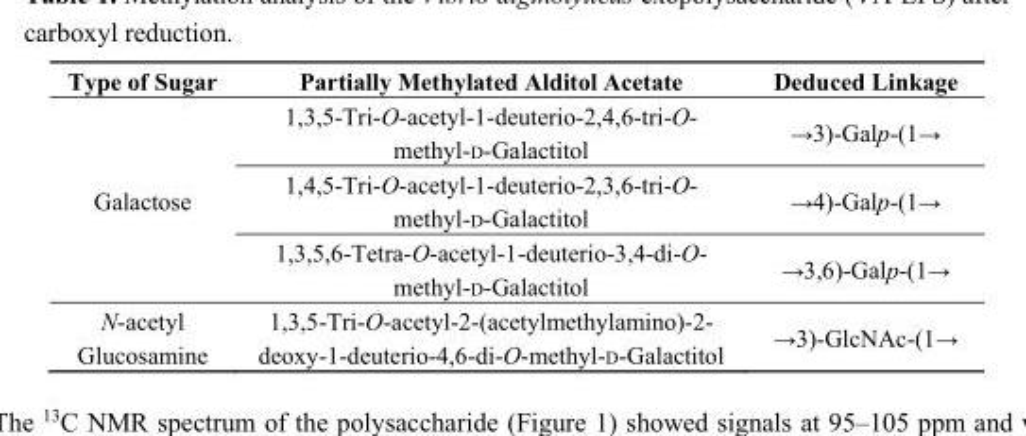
<table><thead><tr><td>Type of Sugar</td><td>Partially Methylated Alditol Acetate</td><td>Deduced Linkage</td></tr></thead><tbody><tr><td rowspan="3">Galactose</td><td>1,3,5-Tri-O-acetyl-1-deuterio-2,4,6-tri-O- methyl-D-Galactitol</td><td>→3)-Galp-(1→</td></tr><tr><td>1,4,5-Tri-O-acetyl-1-deuterio-2,3,6-tri-O- methyl-D-Galactitol</td><td>→4)-Galp-(1→</td></tr><tr><td>1,3,5,6-Tetra-O-acetyl-1-deuterio-3,4-di-O- methyl-D-Galactitol</td><td>→3,6)-Galp-(1→</td></tr><tr><td>N-acetyl Glucosamine</td><td>1,3,5-Tri-O-acetyl-2-(acetylmethylamino)-2- deoxy-1-deuterio-4,6-di-O-methyl-D-Galactitol</td><td>→3)-GlcNAc-(1→</td></tr></tbody></table>